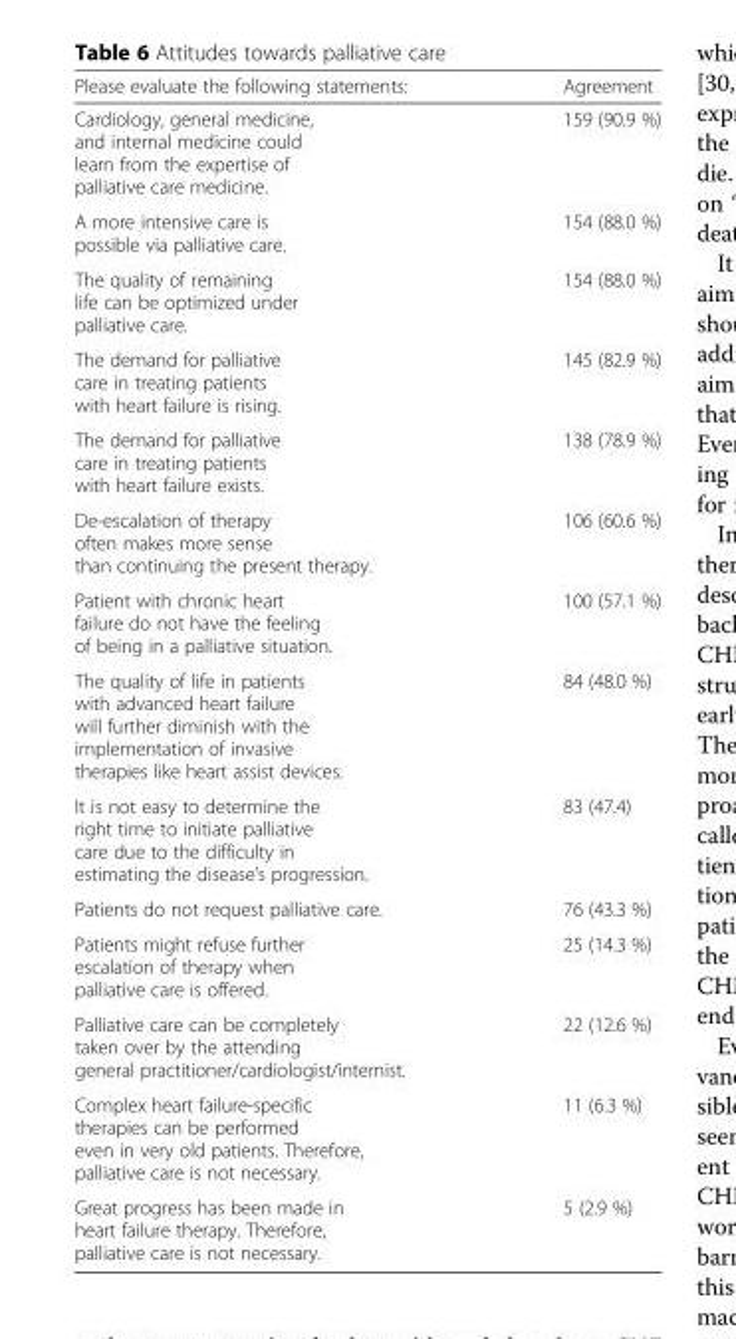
<table><thead><tr><td>Please evaluate the following statements:</td><td>Agreement</td></tr></thead><tbody><tr><td>Cardiology, general medicine, and internal medicine could learn from the expertise of palliative care medicine.</td><td>159 (90.9 %)</td></tr><tr><td>A more intensive care is possible via palliative care.</td><td>154 (88.0 %)</td></tr><tr><td>The quality of remaining life can be optimized under palliative care.</td><td>154 (88.0 %)</td></tr><tr><td>The demand for palliative care in treating patients with heart failure is rising.</td><td>145 (82.9 %)</td></tr><tr><td>The demand for palliative care in treating patients with heart failure exists.</td><td>138 (78.9 %)</td></tr><tr><td>De-escalation of therapy often makes more sense than continuing the present therapy.</td><td>106 (60.6 %)</td></tr><tr><td>Patient with chronic heart failure do not have the feeling of being in a palliative situation.</td><td>100 (57.1 %)</td></tr><tr><td>The quality of life in patients with advanced heart failure will further diminish with the implementation of invasive therapies like heart assist devices.</td><td>84 (48.0 %)</td></tr><tr><td>It is not easy to determine the right time to initiate palliative care due to the difficulty in estimating the disease’s progression.</td><td>83 (47.4)</td></tr><tr><td>Patients do not request palliative care.</td><td>76 (43.3 %)</td></tr><tr><td>Patients might refuse further escalation of therapy when palliative care is offered.</td><td>25 (14.3 %)</td></tr><tr><td>Palliative care can be completely taken over by the attending general practitioner/cardiologist/internist.</td><td>22 (12.6 %)</td></tr><tr><td>Complex heart failure-specific therapies can be performed even in very old patients. Therefore, palliative care is not necessary.</td><td>11 (6.3 %)</td></tr><tr><td>Great progress has been made in heart failure therapy. Therefore, palliative care is not necessary.</td><td>5 (2.9 %)</td></tr></tbody></table>